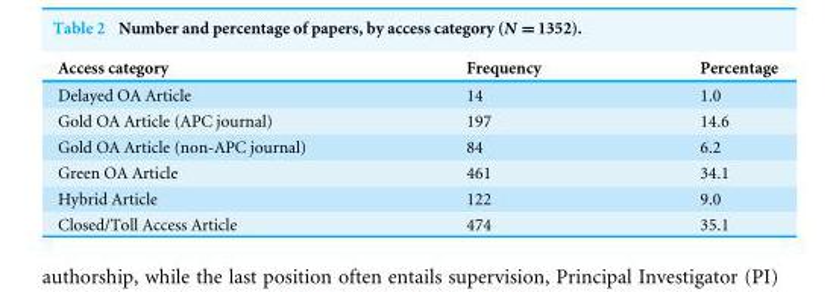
<table><thead><tr><td>Access category</td><td>Frequency</td><td>Percentage</td></tr></thead><tbody><tr><td>Delayed OA Article</td><td>14</td><td>1.0</td></tr><tr><td>Gold OA Article (APC journal)</td><td>197</td><td>14.6</td></tr><tr><td>Gold OA Article (non-APC journal)</td><td>84</td><td>6.2</td></tr><tr><td>Green OA Article</td><td>461</td><td>34.1</td></tr><tr><td>Hybrid Article</td><td>122</td><td>9.0</td></tr><tr><td>Closed/Toll Access Article</td><td>474</td><td>35.1</td></tr></tbody></table>